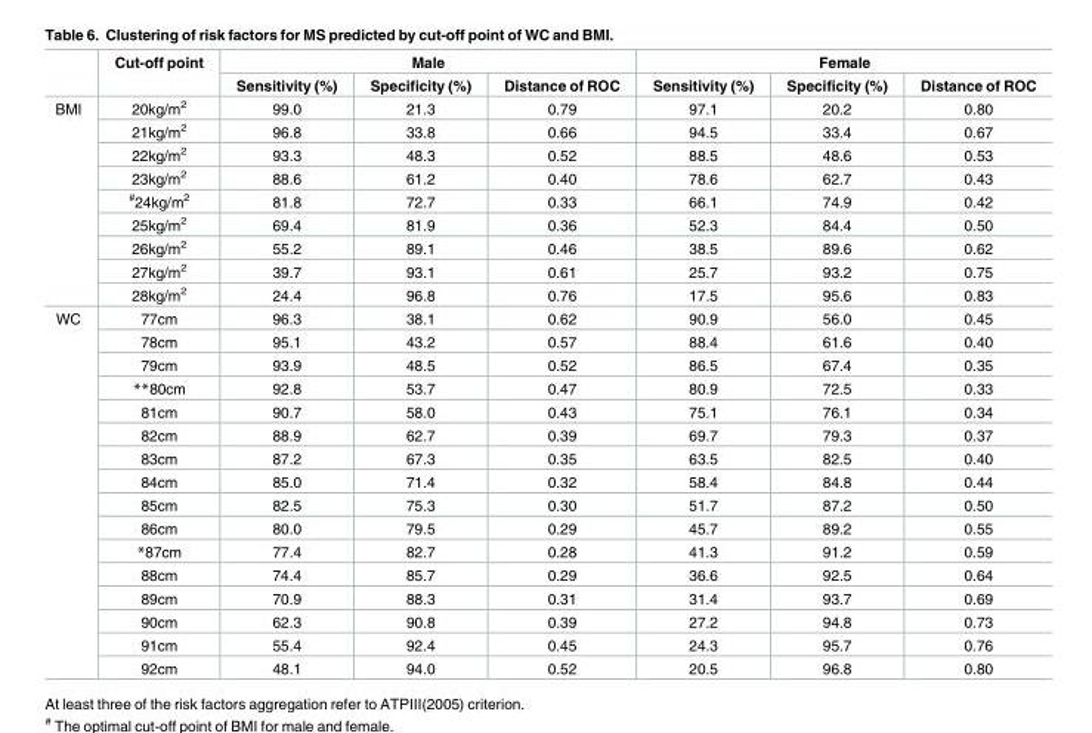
<table><thead><tr><td rowspan="2"></td><td rowspan="2">Cut-off point</td><td colspan="3">Male</td><td colspan="3">Female</td></tr><tr><td>Sensitivity (%)</td><td>Specificity (%)</td><td>Distance of ROC</td><td>Sensitivity (%)</td><td>Specificity (%)</td><td>Distance of ROC</td></tr></thead><tbody><tr><td rowspan="9">BMI</td><td>20kg/m<sup>2</sup></td><td>99.0</td><td>21.3</td><td>0.79</td><td>97.1</td><td>20.2</td><td>0.80</td></tr><tr><td>21kg/m<sup>2</sup></td><td>96.8</td><td>33.8</td><td>0.66</td><td>94.5</td><td>33.4</td><td>0.67</td></tr><tr><td>22kg/m<sup>2</sup></td><td>93.3</td><td>48.3</td><td>0.52</td><td>88.5</td><td>48.6</td><td>0.53</td></tr><tr><td>23kg/m<sup>2</sup></td><td>88.6</td><td>61.2</td><td>0.40</td><td>78.6</td><td>62.7</td><td>0.43</td></tr><tr><td><sup>#</sup>24kg/m<sup>2</sup></td><td>81.8</td><td>72.7</td><td>0.33</td><td>66.1</td><td>74.9</td><td>0.42</td></tr><tr><td>25kg/m<sup>2</sup></td><td>69.4</td><td>81.9</td><td>0.36</td><td>52.3</td><td>84.4</td><td>0.50</td></tr><tr><td>26kg/m<sup>2</sup></td><td>55.2</td><td>89.1</td><td>0.46</td><td>38.5</td><td>89.6</td><td>0.62</td></tr><tr><td>27kg/m<sup>2</sup></td><td>39.7</td><td>93.1</td><td>0.61</td><td>25.7</td><td>93.2</td><td>0.75</td></tr><tr><td>28kg/m<sup>2</sup></td><td>24.4</td><td>96.8</td><td>0.76</td><td>17.5</td><td>95.6</td><td>0.83</td></tr><tr><td rowspan="16">WC</td><td>77cm</td><td>96.3</td><td>38.1</td><td>0.62</td><td>90.9</td><td>56.0</td><td>0.45</td></tr><tr><td>78cm</td><td>95.1</td><td>43.2</td><td>0.57</td><td>88.4</td><td>61.6</td><td>0.40</td></tr><tr><td>79cm</td><td>93.9</td><td>48.5</td><td>0.52</td><td>86.5</td><td>67.4</td><td>0.35</td></tr><tr><td>**80cm</td><td>92.8</td><td>53.7</td><td>0.47</td><td>80.9</td><td>72.5</td><td>0.33</td></tr><tr><td>81cm</td><td>90.7</td><td>58.0</td><td>0.43</td><td>75.1</td><td>76.1</td><td>0.34</td></tr><tr><td>82cm</td><td>88.9</td><td>62.7</td><td>0.39</td><td>69.7</td><td>79.3</td><td>0.37</td></tr><tr><td>83cm</td><td>87.2</td><td>67.3</td><td>0.35</td><td>63.5</td><td>82.5</td><td>0.40</td></tr><tr><td>84cm</td><td>85.0</td><td>71.4</td><td>0.32</td><td>58.4</td><td>84.8</td><td>0.44</td></tr><tr><td>85cm</td><td>82.5</td><td>75.3</td><td>0.30</td><td>51.7</td><td>87.2</td><td>0.50</td></tr><tr><td>86cm</td><td>80.0</td><td>79.5</td><td>0.29</td><td>45.7</td><td>89.2</td><td>0.55</td></tr><tr><td>*87cm</td><td>77.4</td><td>82.7</td><td>0.28</td><td>41.3</td><td>91.2</td><td>0.59</td></tr><tr><td>88cm</td><td>74.4</td><td>85.7</td><td>0.29</td><td>36.6</td><td>92.5</td><td>0.64</td></tr><tr><td>89cm</td><td>70.9</td><td>88.3</td><td>0.31</td><td>31.4</td><td>93.7</td><td>0.69</td></tr><tr><td>90cm</td><td>62.3</td><td>90.8</td><td>0.39</td><td>27.2</td><td>94.8</td><td>0.73</td></tr><tr><td>91cm</td><td>55.4</td><td>92.4</td><td>0.45</td><td>24.3</td><td>95.7</td><td>0.76</td></tr><tr><td>92cm</td><td>48.1</td><td>94.0</td><td>0.52</td><td>20.5</td><td>96.8</td><td>0.80</td></tr></tbody></table>